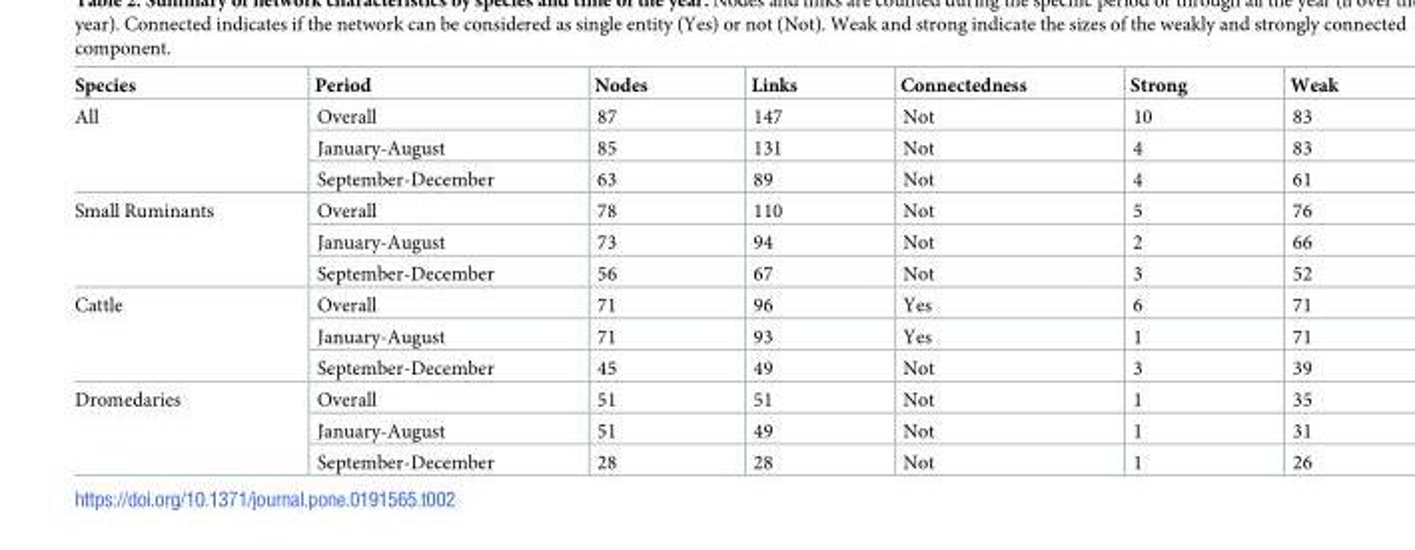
<table><thead><tr><td>Species</td><td>Period</td><td>Nodes</td><td>Links</td><td>Connectedness</td><td>Strong</td><td>Weak</td></tr></thead><tbody><tr><td rowspan="3">All</td><td>Overall</td><td>87</td><td>147</td><td>Not</td><td>10</td><td>83</td></tr><tr><td>January-August</td><td>85</td><td>131</td><td>Not</td><td>4</td><td>83</td></tr><tr><td>September-December</td><td>63</td><td>89</td><td>Not</td><td>4</td><td>61</td></tr><tr><td rowspan="3">Small Ruminants</td><td>Overall</td><td>78</td><td>110</td><td>Not</td><td>5</td><td>76</td></tr><tr><td>January-August</td><td>73</td><td>94</td><td>Not</td><td>2</td><td>66</td></tr><tr><td>September-December</td><td>56</td><td>67</td><td>Not</td><td>3</td><td>52</td></tr><tr><td rowspan="3">Cattle</td><td>Overall</td><td>71</td><td>96</td><td>Yes</td><td>6</td><td>71</td></tr><tr><td>January-August</td><td>71</td><td>93</td><td>Yes</td><td>1</td><td>71</td></tr><tr><td>September-December</td><td>45</td><td>49</td><td>Not</td><td>3</td><td>39</td></tr><tr><td rowspan="3">Dromedaries</td><td>Overall</td><td>51</td><td>51</td><td>Not</td><td>1</td><td>35</td></tr><tr><td>January-August</td><td>51</td><td>49</td><td>Not</td><td>1</td><td>31</td></tr><tr><td>September-December</td><td>28</td><td>28</td><td>Not</td><td>1</td><td>26</td></tr></tbody></table>